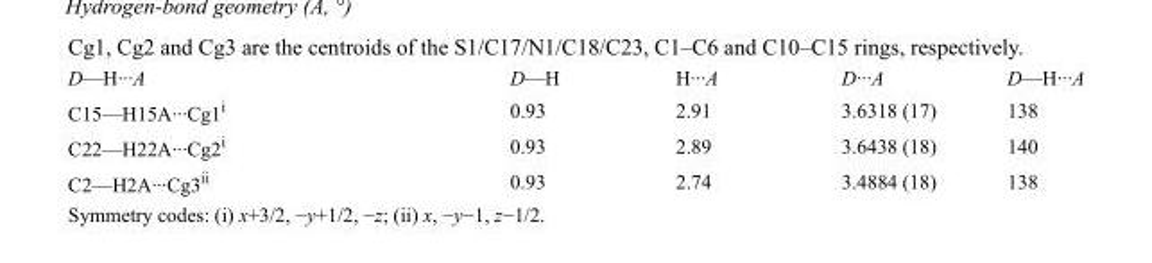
<table><tbody><tr><td>D—H···A</td><td>D—H</td><td>H···A</td><td>D···A</td><td>D—H···A</td></tr><tr><td>C15—H15A···Cg1<sup>i</sup></td><td>0.93</td><td>2.91</td><td>3.6318 (17)</td><td>138</td></tr><tr><td>C22—H22A···Cg2<sup>i</sup></td><td>0.93</td><td>2.89</td><td>3.6438 (18)</td><td>140</td></tr><tr><td>C2—H2A···Cg3<sup>ii</sup></td><td>0.93</td><td>2.74</td><td>3.4884 (18)</td><td>138</td></tr></tbody></table>